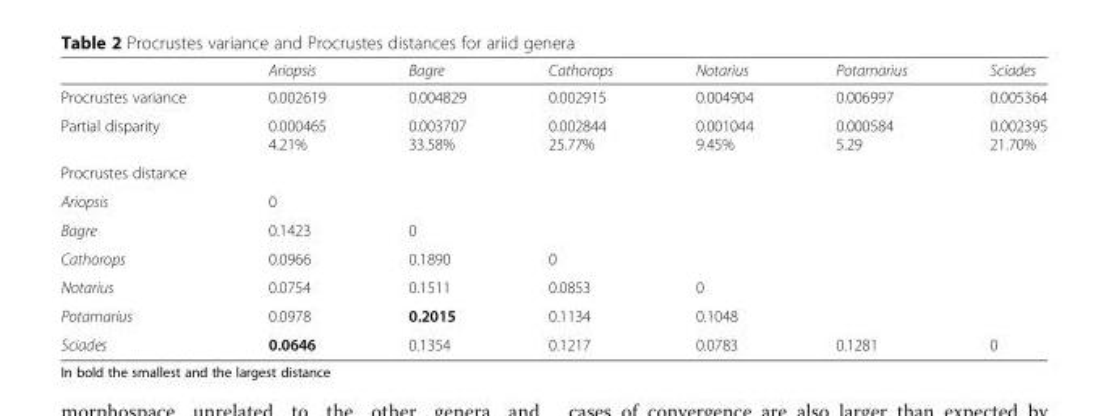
<table><thead><tr><td></td><td>Ariopsis</td><td>Bagre</td><td>Cathorops</td><td>Notarius</td><td>Potamarius</td><td>Sciades</td></tr></thead><tbody><tr><td>Procrustes variance</td><td>0.002619</td><td>0.004829</td><td>0.002915</td><td>0.004904</td><td>0.006997</td><td>0.005364</td></tr><tr><td>Partial disparity</td><td>0.000465 4.21%</td><td>0.003707 33.58%</td><td>0.002844 25.77%</td><td>0.001044 9.45%</td><td>0.000584 5.29</td><td>0.002395 21.70%</td></tr><tr><td colspan="7">Procrustes distance</td></tr><tr><td>Ariopsis</td><td>0</td><td></td><td></td><td></td><td></td><td></td></tr><tr><td>Bagre</td><td>0.1423</td><td>0</td><td></td><td></td><td></td><td></td></tr><tr><td>Cathorops</td><td>0.0966</td><td>0.1890</td><td>0</td><td></td><td></td><td></td></tr><tr><td>Notarius</td><td>0.0754</td><td>0.1511</td><td>0.0853</td><td>0</td><td></td><td></td></tr><tr><td>Potamarius</td><td>0.0978</td><td>0.2015</td><td>0.1134</td><td>0.1048</td><td></td><td></td></tr><tr><td>Sciades</td><td>0.0646</td><td>0.1354</td><td>0.1217</td><td>0.0783</td><td>0.1281</td><td>0</td></tr></tbody></table>